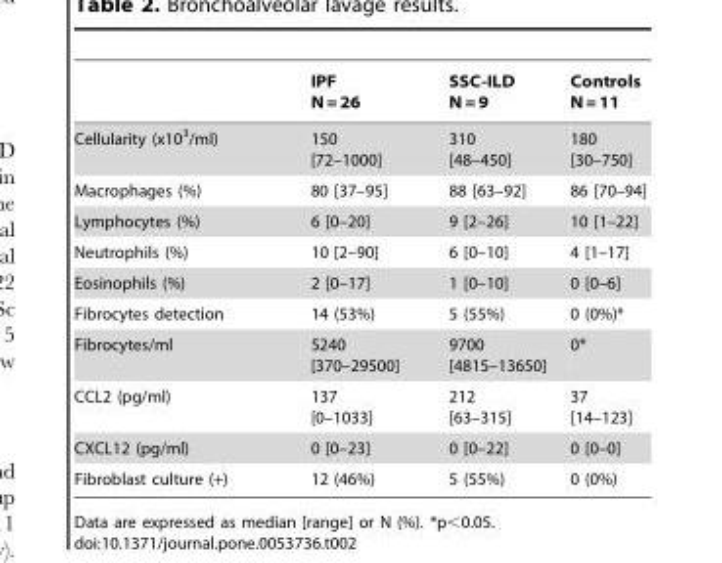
<table><thead><tr><td></td><td>IPF N = 26</td><td>SSC-ILD N = 9</td><td>Controls N = 11</td></tr></thead><tbody><tr><td>Cellularity (x10<sup>3</sup>/ml)</td><td>150 [72–1000]</td><td>310 [48–450]</td><td>180 [30–750]</td></tr><tr><td>Macrophages (%)</td><td>80 [37–95]</td><td>88 [63–92]</td><td>86 [70–94]</td></tr><tr><td>Lymphocytes (%)</td><td>6 [0–20]</td><td>9 [2–26]</td><td>10 [1–22]</td></tr><tr><td>Neutrophils (%)</td><td>10 [2–90]</td><td>6 [0–10]</td><td>4 [1–17]</td></tr><tr><td>Eosinophils (%)</td><td>2 [0–17]</td><td>1 [0–10]</td><td>0 [0–6]</td></tr><tr><td>Fibrocytes detection</td><td>14 (53%)</td><td>5 (55%)</td><td>0 (0%)*</td></tr><tr><td>Fibrocytes/ml</td><td>5240 [370–29500]</td><td>9700 [4815–13650]</td><td>0*</td></tr><tr><td>CCL2 (pg/ml)</td><td>137 [0–1033]</td><td>212 [63–315]</td><td>37 [14–123]</td></tr><tr><td>CXCL12 (pg/ml)</td><td>0 [0–23]</td><td>0 [0–22]</td><td>0 [0–0]</td></tr><tr><td>Fibroblast culture (+)</td><td>12 (46%)</td><td>5 (55%)</td><td>0 (0%)</td></tr></tbody></table>